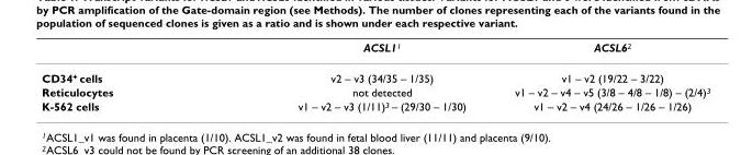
<table><thead><tr><td></td><td>ACSL11</td><td>ACSL62</td></tr></thead><tbody><tr><td>CD34+ cells</td><td>v2 – v3 (34/35 – 1/35)</td><td>v1 – v2 (19/22 – 3/22)</td></tr><tr><td>Reticulocytes</td><td>not detected</td><td>v1 – v2 – v4 – v5 (3/8 – 4/8 – 1/8) – (2/4)3</td></tr><tr><td>K-562 cells</td><td>v1 – v2 – v3 (1/11)3 – (29/30 – 1/30)</td><td>v1 – v2 – v4 (24/26 – 1/26 – 1/26)</td></tr></tbody></table>